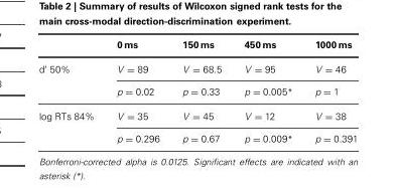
<table><thead><tr><td></td><td>0 ms</td><td>150 ms</td><td>450 ms</td><td>1000 ms</td></tr></thead><tbody><tr><td rowspan="2">d′ 50%</td><td>V = 89</td><td>V = 68.5</td><td>V = 95</td><td>V = 46</td></tr><tr><td>p = 0.02</td><td>p = 0.33</td><td>p = 0.005*</td><td>p = 1</td></tr><tr><td rowspan="2">log RTs 84%</td><td>V = 35</td><td>V = 45</td><td>V = 12</td><td>V = 38</td></tr><tr><td>p = 0.296</td><td>p = 0.67</td><td>p = 0.009*</td><td>p = 0.391</td></tr></tbody></table>